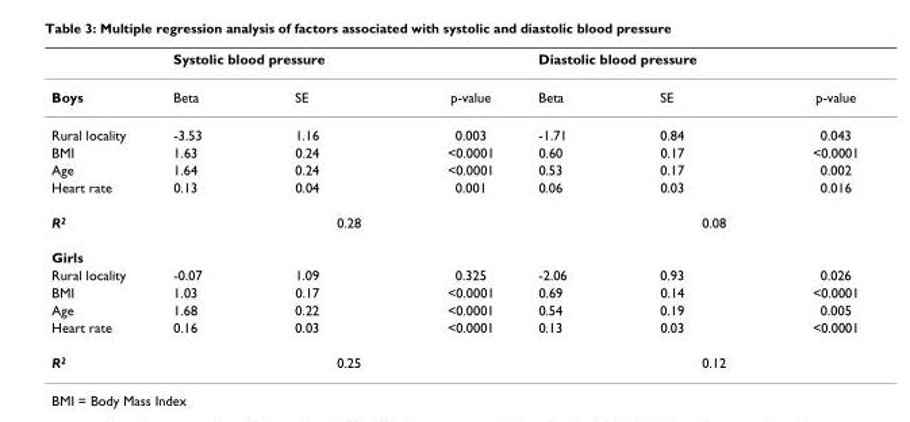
<table><thead><tr><td rowspan="2">Boys</td><td colspan="3">Systolic blood pressure</td><td colspan="3">Diastolic blood pressure</td></tr><tr><td>Beta</td><td>SE</td><td>p-value</td><td>Beta</td><td>SE</td><td>p-value</td></tr></thead><tbody><tr><td>Rural locality</td><td>-3.53</td><td>1.16</td><td>0.003</td><td>-1.71</td><td>0.84</td><td>0.043</td></tr><tr><td>BMI</td><td>1.63</td><td>0.24</td><td>&lt;0.0001</td><td>0.60</td><td>0.17</td><td>&lt;0.0001</td></tr><tr><td>Age</td><td>1.64</td><td>0.24</td><td>&lt;0.0001</td><td>0.53</td><td>0.17</td><td>0.002</td></tr><tr><td>Heart rate</td><td>0.13</td><td>0.04</td><td>0.001</td><td>0.06</td><td>0.03</td><td>0.016</td></tr><tr><td>R<sup>2</sup></td><td colspan="3">0.28</td><td colspan="3">0.08</td></tr><tr><td colspan="7">Girls</td></tr><tr><td>Rural locality</td><td>-0.07</td><td>1.09</td><td>0.325</td><td>-2.06</td><td>0.93</td><td>0.026</td></tr><tr><td>BMI</td><td>1.03</td><td>0.17</td><td>&lt;0.0001</td><td>0.69</td><td>0.14</td><td>&lt;0.0001</td></tr><tr><td>Age</td><td>1.68</td><td>0.22</td><td>&lt;0.0001</td><td>0.54</td><td>0.19</td><td>0.005</td></tr><tr><td>Heart rate</td><td>0.16</td><td>0.03</td><td>&lt;0.0001</td><td>0.13</td><td>0.03</td><td>&lt;0.0001</td></tr><tr><td>R<sup>2</sup></td><td colspan="3">0.25</td><td colspan="3">0.12</td></tr></tbody></table>